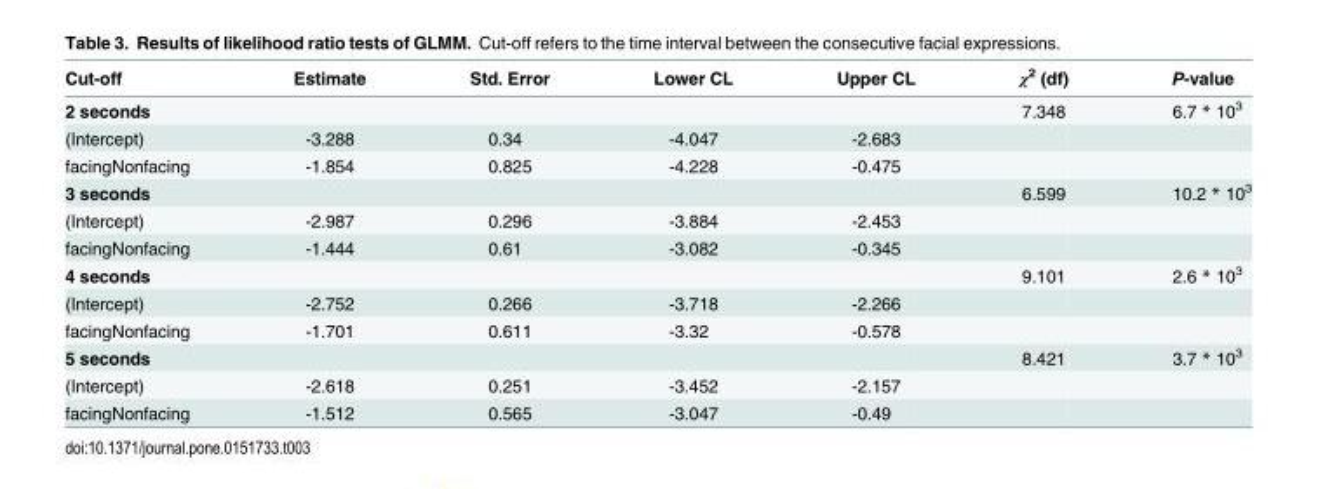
<table><thead><tr><td>Cut-off</td><td>Estimate</td><td>Std. Error</td><td>Lower CL</td><td>Upper CL</td><td>χ<sup>2</sup> (df)</td><td>P-value</td></tr></thead><tbody><tr><td>2 seconds</td><td></td><td></td><td></td><td></td><td>7.348</td><td>6.7 * 10<sup>3</sup></td></tr><tr><td>(Intercept)</td><td>-3.288</td><td>0.34</td><td>-4.047</td><td>-2.683</td><td></td><td></td></tr><tr><td>facingNonfacing</td><td>-1.854</td><td>0.825</td><td>-4.228</td><td>-0.475</td><td></td><td></td></tr><tr><td>3 seconds</td><td></td><td></td><td></td><td></td><td>6.599</td><td>10.2 * 10<sup>3</sup></td></tr><tr><td>(Intercept)</td><td>-2.987</td><td>0.296</td><td>-3.884</td><td>-2.453</td><td></td><td></td></tr><tr><td>facingNonfacing</td><td>-1.444</td><td>0.61</td><td>-3.082</td><td>-0.345</td><td></td><td></td></tr><tr><td>4 seconds</td><td></td><td></td><td></td><td></td><td>9.101</td><td>2.6 * 10<sup>3</sup></td></tr><tr><td>(Intercept)</td><td>-2.752</td><td>0.266</td><td>-3.718</td><td>-2.266</td><td></td><td></td></tr><tr><td>facingNonfacing</td><td>-1.701</td><td>0.611</td><td>-3.32</td><td>-0.578</td><td></td><td></td></tr><tr><td>5 seconds</td><td></td><td></td><td></td><td></td><td>8.421</td><td>3.7 * 10<sup>3</sup></td></tr><tr><td>(Intercept)</td><td>-2.618</td><td>0.251</td><td>-3.452</td><td>-2.157</td><td></td><td></td></tr><tr><td>facingNonfacing</td><td>-1.512</td><td>0.565</td><td>-3.047</td><td>-0.49</td><td></td><td></td></tr></tbody></table>